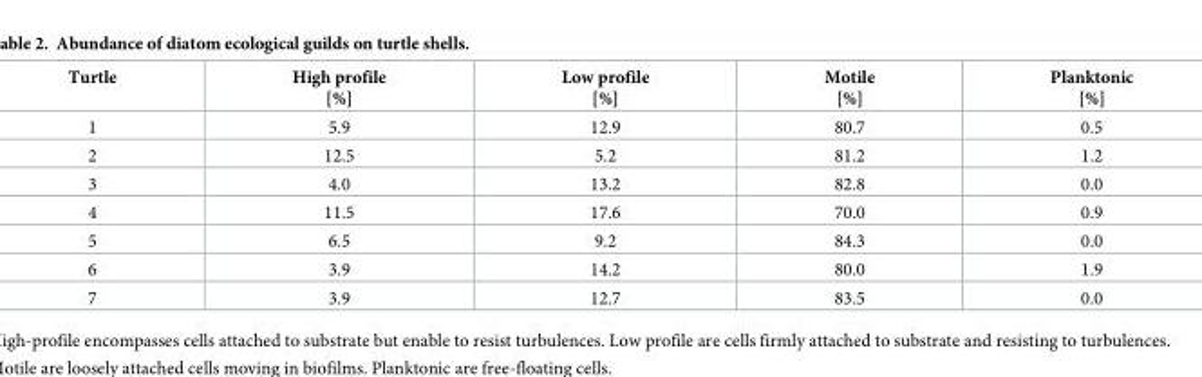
<table><thead><tr><td>Turtle</td><td>High profile [%]</td><td>Low profile [%]</td><td>Motile [%]</td><td>Planktonic [%]</td></tr></thead><tbody><tr><td>1</td><td>5.9</td><td>12.9</td><td>80.7</td><td>0.5</td></tr><tr><td>2</td><td>12.5</td><td>5.2</td><td>81.2</td><td>1.2</td></tr><tr><td>3</td><td>4.0</td><td>13.2</td><td>82.8</td><td>0.0</td></tr><tr><td>4</td><td>11.5</td><td>17.6</td><td>70.0</td><td>0.9</td></tr><tr><td>5</td><td>6.5</td><td>9.2</td><td>84.3</td><td>0.0</td></tr><tr><td>6</td><td>3.9</td><td>14.2</td><td>80.0</td><td>1.9</td></tr><tr><td>7</td><td>3.9</td><td>12.7</td><td>83.5</td><td>0.0</td></tr></tbody></table>